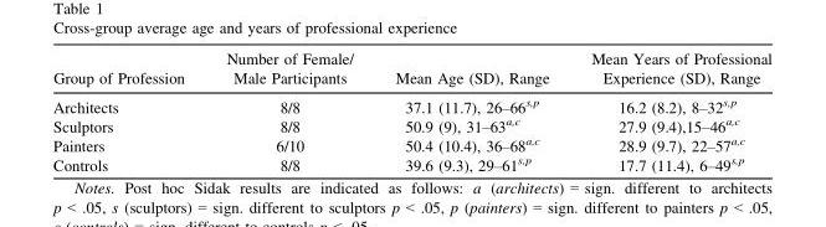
<table><thead><tr><td>Group of Profession</td><td>Number of Female/ Male Participants</td><td>Mean Age (SD), Range</td><td>Mean Years of Professional Experience (SD), Range</td></tr></thead><tbody><tr><td>Architects</td><td>8/8</td><td>37.1 (11.7), 26–66<sup>s,p</sup></td><td>16.2 (8.2), 8–32<sup>s,p</sup></td></tr><tr><td>Sculptors</td><td>8/8</td><td>50.9 (9), 31–63<sup>a,c</sup></td><td>27.9 (9.4),15–46<sup>a,c</sup></td></tr><tr><td>Painters</td><td>6/10</td><td>50.4 (10.4), 36–68<sup>a,c</sup></td><td>28.9 (9.7), 22–57<sup>a,c</sup></td></tr><tr><td>Controls</td><td>8/8</td><td>39.6 (9.3), 29–61<sup>s,p</sup></td><td>17.7 (11.4), 6–49<sup>s,p</sup></td></tr></tbody></table>